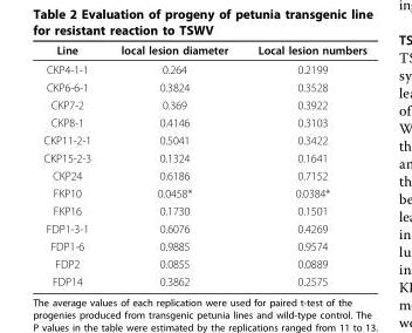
<table><thead><tr><td>Line</td><td>local lesion diameter</td><td>Local lesion numbers</td></tr></thead><tbody><tr><td>CKP4-1-1</td><td>0.264</td><td>0.2199</td></tr><tr><td>CKP6-6-1</td><td>0.3824</td><td>0.3528</td></tr><tr><td>CKP7-2</td><td>0.369</td><td>0.3922</td></tr><tr><td>CKP8-1</td><td>0.4146</td><td>0.3103</td></tr><tr><td>CKP11-2-1</td><td>0.5041</td><td>0.3422</td></tr><tr><td>CKP15-2-3</td><td>0.1324</td><td>0.1641</td></tr><tr><td>CKP24</td><td>0.6186</td><td>0.7152</td></tr><tr><td>FKP10</td><td>0.0458*</td><td>0.0384*</td></tr><tr><td>FKP16</td><td>0.1730</td><td>0.1501</td></tr><tr><td>FDP1-3-1</td><td>0.6076</td><td>0.4269</td></tr><tr><td>FDP1-6</td><td>0.9885</td><td>0.9574</td></tr><tr><td>FDP2</td><td>0.0855</td><td>0.0889</td></tr><tr><td>FDP14</td><td>0.3862</td><td>0.2575</td></tr></tbody></table>